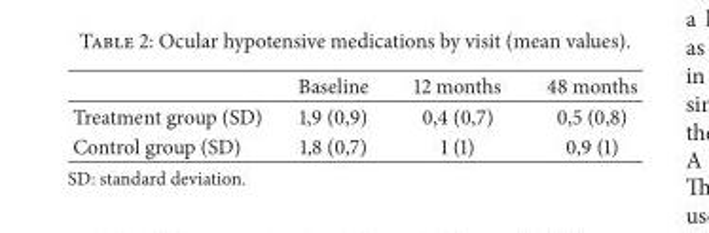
<table><thead><tr><td></td><td>Baseline</td><td>12 months</td><td>48 months</td></tr></thead><tbody><tr><td>Treatment group (SD)</td><td>1,9 (0,9)</td><td>0,4 (0,7)</td><td>0,5 (0,8)</td></tr><tr><td>Control group (SD)</td><td>1,8 (0,7)</td><td>1 (1)</td><td>0,9 (1)</td></tr></tbody></table>